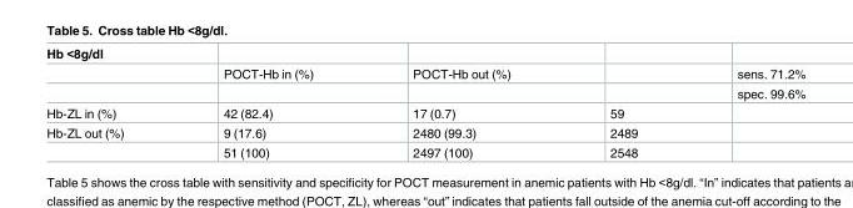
<table><thead><tr><td>Hb &lt;8g/dl</td><td></td><td></td><td></td><td></td></tr></thead><tbody><tr><td></td><td>POCT-Hb in (%)</td><td>POCT-Hb out (%)</td><td></td><td>sens. 71.2%</td></tr><tr><td></td><td></td><td></td><td></td><td>spec. 99.6%</td></tr><tr><td>Hb-ZL in (%)</td><td>42 (82.4)</td><td>17 (0.7)</td><td>59</td><td></td></tr><tr><td rowspan="2">Hb-ZL out (%)</td><td>9 (17.6)</td><td>2480 (99.3)</td><td>2489</td><td></td></tr><tr><td>51 (100)</td><td>2497 (100)</td><td>2548</td><td></td></tr></tbody></table>